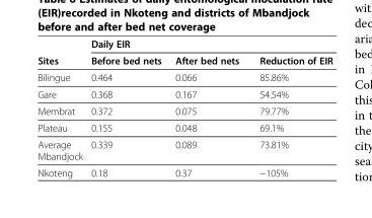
<table><thead><tr><td rowspan="2">Sites</td><td colspan="3">Daily EIR</td></tr><tr><td>Before bed nets</td><td>After bed nets</td><td>Reduction of EIR</td></tr></thead><tbody><tr><td>Bilingue</td><td>0.464</td><td>0.066</td><td>85.86%</td></tr><tr><td>Gare</td><td>0.368</td><td>0.167</td><td>54.54%</td></tr><tr><td>Membrat</td><td>0.372</td><td>0.075</td><td>79.77%</td></tr><tr><td>Plateau</td><td>0.155</td><td>0.048</td><td>69.1%</td></tr><tr><td>Average Mbandjock</td><td>0.339</td><td>0.089</td><td>73.81%</td></tr><tr><td>Nkoteng</td><td>0.18</td><td>0.37</td><td>−105%</td></tr></tbody></table>